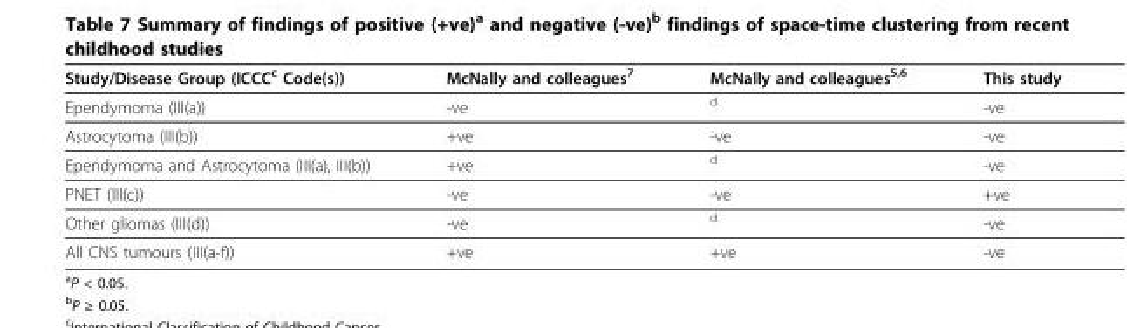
<table><thead><tr><td>Study/Disease Group (ICCC<sup>c</sup> Code(s))</td><td>McNally and colleagues<sup>7</sup></td><td>McNally and colleagues<sup>5,6</sup></td><td>This study</td></tr></thead><tbody><tr><td>Ependymoma (III(a))</td><td>-ve</td><td><sup>d</sup></td><td>-ve</td></tr><tr><td>Astrocytoma (III(b))</td><td>+ve</td><td>-ve</td><td>-ve</td></tr><tr><td>Ependymoma and Astrocytoma (III(a), III(b))</td><td>+ve</td><td><sup>d</sup></td><td>-ve</td></tr><tr><td>PNET (III(c))</td><td>-ve</td><td>-ve</td><td>+ve</td></tr><tr><td>Other gliomas (III(d))</td><td>-ve</td><td><sup>d</sup></td><td>-ve</td></tr><tr><td>All CNS tumours (III(a-f))</td><td>+ve</td><td>+ve</td><td>-ve</td></tr></tbody></table>